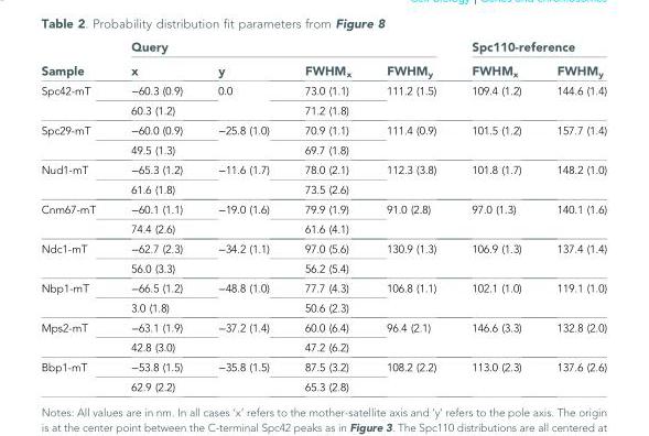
<table><thead><tr><td rowspan="2">Sample</td><td colspan="4">Query</td><td colspan="2">Spc110-reference</td></tr><tr><td>x</td><td>y</td><td>FWHM<sub>x</sub></td><td>FWHM<sub>y</sub></td><td>FWHM<sub>x</sub></td><td>FWHM<sub>y</sub></td></tr></thead><tbody><tr><td rowspan="2">Spc42-mT</td><td>−60.3 (0.9)</td><td rowspan="2">0.0</td><td>73.0 (1.1)</td><td rowspan="2">111.2 (1.5)</td><td rowspan="2">109.4 (1.2)</td><td rowspan="2">144.6 (1.4)</td></tr><tr><td>60.3 (1.2)</td><td>71.2 (1.8)</td></tr><tr><td rowspan="2">Spc29-mT</td><td>−60.0 (0.9)</td><td rowspan="2">−25.8 (1.0)</td><td>70.9 (1.1)</td><td rowspan="2">111.4 (0.9)</td><td rowspan="2">101.5 (1.2)</td><td rowspan="2">157.7 (1.4)</td></tr><tr><td>49.5 (1.3)</td><td>69.7 (1.8)</td></tr><tr><td rowspan="2">Nud1-mT</td><td>−65.3 (1.2)</td><td rowspan="2">−11.6 (1.7)</td><td>78.0 (2.1)</td><td rowspan="2">112.3 (3.8)</td><td rowspan="2">101.8 (1.7)</td><td rowspan="2">148.2 (1.0)</td></tr><tr><td>61.6 (1.8)</td><td>73.5 (2.6)</td></tr><tr><td rowspan="2">Cnm67-mT</td><td>−60.1 (1.1)</td><td rowspan="2">−19.0 (1.6)</td><td>79.9 (1.9)</td><td rowspan="2">91.0 (2.8)</td><td rowspan="2">97.0 (1.3)</td><td rowspan="2">140.1 (1.6)</td></tr><tr><td>74.4 (2.6)</td><td>61.6 (4.1)</td></tr><tr><td rowspan="2">Ndc1-mT</td><td>−62.7 (2.3)</td><td rowspan="2">−34.2 (1.1)</td><td>97.0 (5.6)</td><td rowspan="2">130.9 (1.3)</td><td rowspan="2">106.9 (1.3)</td><td rowspan="2">137.4 (1.4)</td></tr><tr><td>56.0 (3.3)</td><td>56.2 (5.4)</td></tr><tr><td rowspan="2">Nbp1-mT</td><td>−66.5 (1.2)</td><td rowspan="2">−48.8 (1.0)</td><td>77.7 (4.3)</td><td rowspan="2">106.8 (1.1)</td><td rowspan="2">102.1 (1.0)</td><td rowspan="2">119.1 (1.0)</td></tr><tr><td>3.0 (1.8)</td><td>50.6 (2.3)</td></tr><tr><td rowspan="2">Mps2-mT</td><td>−63.1 (1.9)</td><td rowspan="2">−37.2 (1.4)</td><td>60.0 (6.4)</td><td rowspan="2">96.4 (2.1)</td><td rowspan="2">146.6 (3.3)</td><td rowspan="2">132.8 (2.0)</td></tr><tr><td>42.8 (3.0)</td><td>47.2 (6.2)</td></tr><tr><td rowspan="2">Bbp1-mT</td><td>−53.8 (1.5)</td><td rowspan="2">−35.8 (1.5)</td><td>87.5 (3.2)</td><td rowspan="2">108.2 (2.2)</td><td rowspan="2">113.0 (2.3)</td><td rowspan="2">137.6 (2.6)</td></tr><tr><td>62.9 (2.2)</td><td>65.3 (2.8)</td></tr></tbody></table>